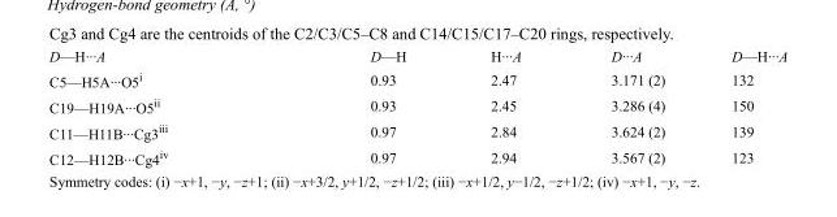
<table><tbody><tr><td>D—H···A</td><td>D—H</td><td>H···A</td><td>D···A</td><td>D—H···A</td></tr><tr><td>C5—H5A···O5<sup>i</sup></td><td>0.93</td><td>2.47</td><td>3.171 (2)</td><td>132</td></tr><tr><td>C19—H19A···O5<sup>ii</sup></td><td>0.93</td><td>2.45</td><td>3.286 (4)</td><td>150</td></tr><tr><td>C11—H11B···Cg3<sup>iii</sup></td><td>0.97</td><td>2.84</td><td>3.624 (2)</td><td>139</td></tr><tr><td>C12—H12B···Cg4<sup>iv</sup></td><td>0.97</td><td>2.94</td><td>3.567 (2)</td><td>123</td></tr></tbody></table>